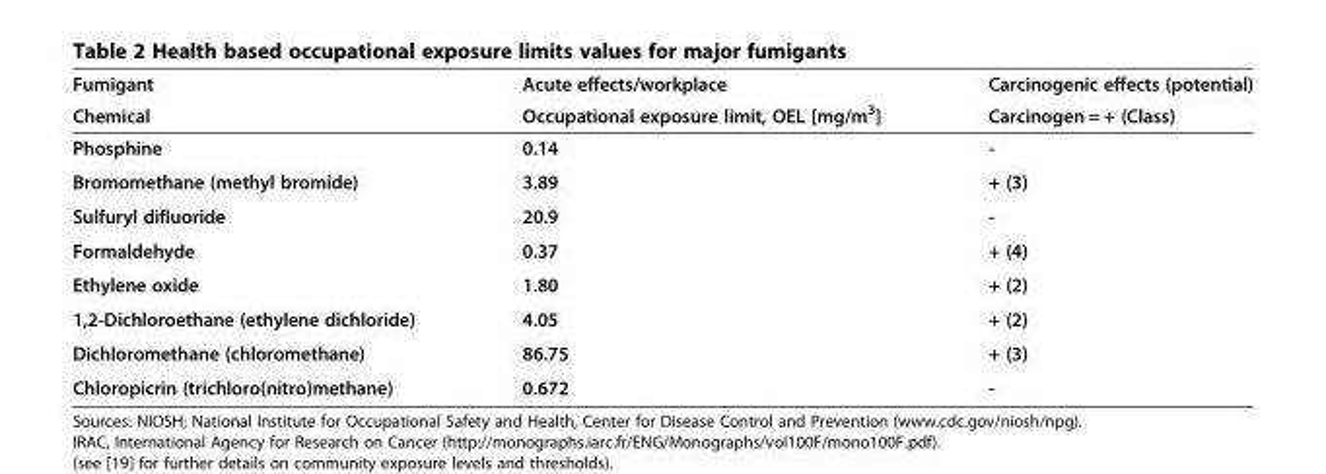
<table><thead><tr><td rowspan="2">Fumigant Chemical</td><td rowspan="2">Acute effects/workplace Occupational exposure limit, OEL [mg/m<sup>3</sup>]</td><td rowspan="2">Carcinogenic effects (potential) Carcinogen = + (Class)</td></tr><tr></tr></thead><tbody><tr><td>Phosphine</td><td>0.14</td><td>-</td></tr><tr><td>Bromomethane (methyl bromide)</td><td>3.89</td><td>+ (3)</td></tr><tr><td>Sulfuryl difluoride</td><td>20.9</td><td>-</td></tr><tr><td>Formaldehyde</td><td>0.37</td><td>+ (4)</td></tr><tr><td>Ethylene oxide</td><td>1.80</td><td>+ (2)</td></tr><tr><td>1,2-Dichloroethane (ethylene dichloride)</td><td>4.05</td><td>+ (2)</td></tr><tr><td>Dichloromethane (chloromethane)</td><td>86.75</td><td>+ (3)</td></tr><tr><td>Chloropicrin (trichloro(nitro)methane)</td><td>0.672</td><td>-</td></tr></tbody></table>